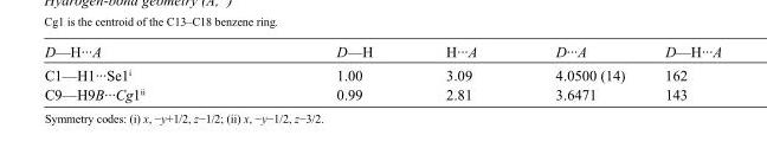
<table><tbody><tr><td>D—H···A</td><td>D—H</td><td>H···A</td><td>D···A</td><td>D—H···A</td></tr><tr><td>C1—H1···Se1<sup>i</sup></td><td>1.00</td><td>3.09</td><td>4.0500 (14)</td><td>162</td></tr><tr><td>C9—H9B···Cg1<sup>ii</sup></td><td>0.99</td><td>2.81</td><td>3.6471</td><td>143</td></tr></tbody></table>